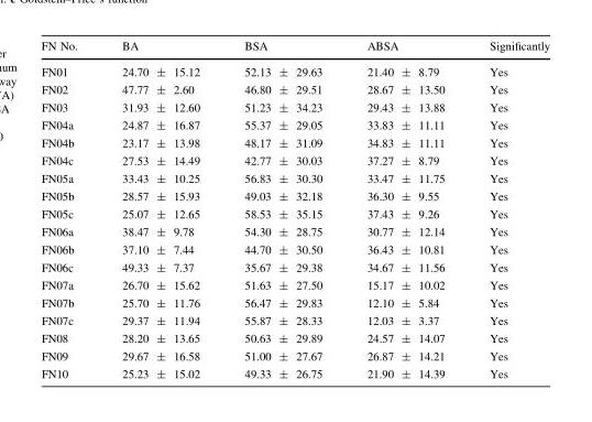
<table><thead><tr><td>FN No.</td><td>BA</td><td>BSA</td><td>ABSA</td><td>Significantly</td></tr></thead><tbody><tr><td>FN01</td><td>24.70 ± 15.12</td><td>52.13 ± 29.63</td><td>21.40 ± 8.79</td><td>Yes</td></tr><tr><td>FN02</td><td>47.77 ± 2.60</td><td>46.80 ± 29.51</td><td>28.67 ± 13.50</td><td>Yes</td></tr><tr><td>FN03</td><td>31.93 ± 12.60</td><td>51.23 ± 34.23</td><td>29.43 ± 13.88</td><td>Yes</td></tr><tr><td>FN04a</td><td>24.87 ± 16.87</td><td>55.37 ± 29.05</td><td>33.83 ± 11.11</td><td>Yes</td></tr><tr><td>FN04b</td><td>23.17 ± 13.98</td><td>48.17 ± 31.09</td><td>34.83 ± 11.11</td><td>Yes</td></tr><tr><td>FN04c</td><td>27.53 ± 14.49</td><td>42.77 ± 30.03</td><td>37.27 ± 8.79</td><td>Yes</td></tr><tr><td>FN05a</td><td>33.43 ± 10.25</td><td>56.83 ± 30.30</td><td>33.47 ± 11.75</td><td>Yes</td></tr><tr><td>FN05b</td><td>28.57 ± 15.93</td><td>49.03 ± 32.18</td><td>36.30 ± 9.55</td><td>Yes</td></tr><tr><td>FN05c</td><td>25.07 ± 12.65</td><td>58.53 ± 35.15</td><td>37.43 ± 9.26</td><td>Yes</td></tr><tr><td>FN06a</td><td>38.47 ± 9.78</td><td>54.30 ± 28.75</td><td>30.77 ± 12.14</td><td>Yes</td></tr><tr><td>FN06b</td><td>37.10 ± 7.44</td><td>44.70 ± 30.50</td><td>36.43 ± 10.81</td><td>Yes</td></tr><tr><td>FN06c</td><td>49.33 ± 7.37</td><td>35.67 ± 29.38</td><td>34.67 ± 11.56</td><td>Yes</td></tr><tr><td>FN07a</td><td>26.70 ± 15.62</td><td>51.63 ± 27.50</td><td>15.17 ± 10.02</td><td>Yes</td></tr><tr><td>FN07b</td><td>25.70 ± 11.76</td><td>56.47 ± 29.83</td><td>12.10 ± 5.84</td><td>Yes</td></tr><tr><td>FN07c</td><td>29.37 ± 11.94</td><td>55.87 ± 28.33</td><td>12.03 ± 3.37</td><td>Yes</td></tr><tr><td>FN08</td><td>28.20 ± 13.65</td><td>50.63 ± 29.89</td><td>24.57 ± 14.07</td><td>Yes</td></tr><tr><td>FN09</td><td>29.67 ± 16.58</td><td>51.00 ± 27.67</td><td>26.87 ± 14.21</td><td>Yes</td></tr><tr><td>FN10</td><td>25.23 ± 15.02</td><td>49.33 ± 26.75</td><td>21.90 ± 14.39</td><td>Yes</td></tr></tbody></table>